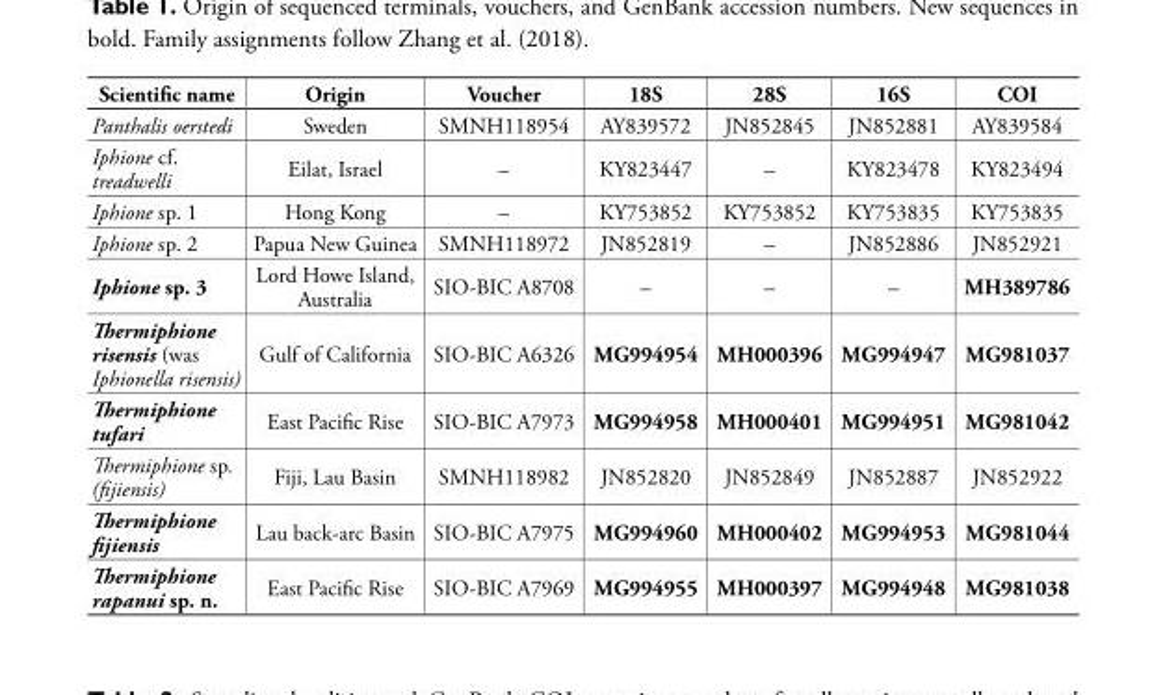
<table><thead><tr><td>Scientific name</td><td>Origin</td><td>Voucher</td><td>18S</td><td>28S</td><td>16S</td><td>COI</td></tr></thead><tbody><tr><td>Panthalis oerstedi</td><td>Sweden</td><td>SMNH118954</td><td>AY839572</td><td>JN852845</td><td>JN852881</td><td>AY839584</td></tr><tr><td>Iphione cf. treadwelli</td><td>Eilat, Israel</td><td>–</td><td>KY823447</td><td>–</td><td>KY823478</td><td>KY823494</td></tr><tr><td>Iphione sp. 1</td><td>Hong Kong</td><td>–</td><td>KY753852</td><td>KY753852</td><td>KY753835</td><td>KY753835</td></tr><tr><td>Iphione sp. 2</td><td>Papua New Guinea</td><td>SMNH118972</td><td>JN852819</td><td>–</td><td>JN852886</td><td>JN852921</td></tr><tr><td>Iphione sp. 3</td><td>Lord Howe Island, Australia</td><td>SIO-BIC A8708</td><td>–</td><td>–</td><td>–</td><td>MH389786</td></tr><tr><td>Thermiphione risensis (was Iphionella risensis)</td><td>Gulf of California</td><td>SIO-BIC A6326</td><td>MG994954</td><td>MH000396</td><td>MG994947</td><td>MG981037</td></tr><tr><td>Thermiphione tufari</td><td>East Pacific Rise</td><td>SIO-BIC A7973</td><td>MG994958</td><td>MH000401</td><td>MG994951</td><td>MG981042</td></tr><tr><td>Thermiphione sp. (fijiensis)</td><td>Fiji, Lau Basin</td><td>SMNH118982</td><td>JN852820</td><td>JN852849</td><td>JN852887</td><td>JN852922</td></tr><tr><td>Thermiphione fijiensis</td><td>Lau back-arc Basin</td><td>SIO-BIC A7975</td><td>MG994960</td><td>MH000402</td><td>MG994953</td><td>MG981044</td></tr><tr><td>Thermiphione rapanui sp. n.</td><td>East Pacific Rise</td><td>SIO-BIC A7969</td><td>MG994955</td><td>MH000397</td><td>MG994948</td><td>MG981038</td></tr></tbody></table>